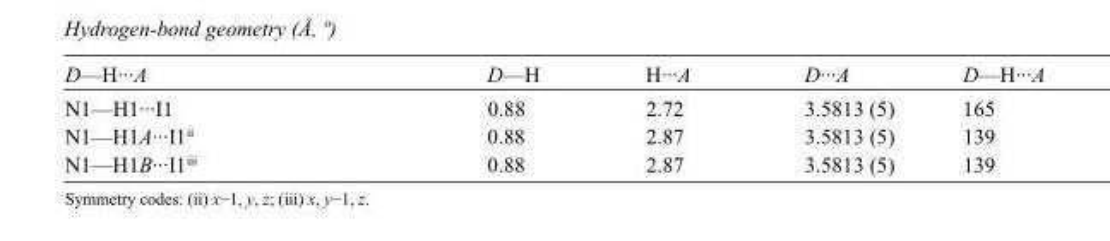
<table><tbody><tr><td>D—H···A</td><td>D—H</td><td>H···A</td><td>D···A</td><td>D—H···A</td></tr><tr><td>N1—H1···I1</td><td>0.88</td><td>2.72</td><td>3.5813 (5)</td><td>165</td></tr><tr><td>N1—H1A···I1<sup>ii</sup></td><td>0.88</td><td>2.87</td><td>3.5813 (5)</td><td>139</td></tr><tr><td>N1—H1B···I1<sup>iii</sup></td><td>0.88</td><td>2.87</td><td>3.5813 (5)</td><td>139</td></tr></tbody></table>